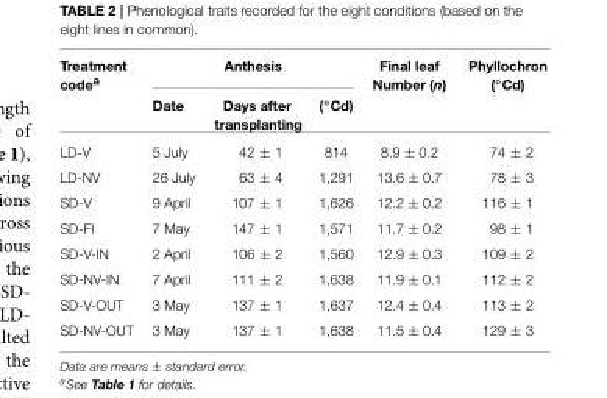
<table><thead><tr><td rowspan="2">Treatment code<sup>a</sup></td><td colspan="3">Anthesis</td><td rowspan="2">Final leaf Number (n)</td><td rowspan="2">Phyllochron (◦Cd)</td></tr><tr><td>Date</td><td>Days after transplanting</td><td>(◦Cd)</td></tr></thead><tbody><tr><td>LD-V</td><td>5 July</td><td>42 ± 1</td><td>814</td><td>8.9 ± 0.2</td><td>74 ± 2</td></tr><tr><td>LD-NV</td><td>26 July</td><td>63 ± 4</td><td>1,291</td><td>13.6 ± 0.7</td><td>78 ± 3</td></tr><tr><td>SD-V</td><td>9 April</td><td>107 ± 1</td><td>1,626</td><td>12.2 ± 0.2</td><td>116 ± 1</td></tr><tr><td>SD-FI</td><td>7 May</td><td>147 ± 1</td><td>1,571</td><td>11.7 ± 0.2</td><td>98 ± 1</td></tr><tr><td>SD-V-IN</td><td>2 April</td><td>106 ± 2</td><td>1,560</td><td>12.9 ± 0.3</td><td>109 ± 2</td></tr><tr><td>SD-NV-IN</td><td>7 April</td><td>111 ± 2</td><td>1,638</td><td>11.9 ± 0.1</td><td>112 ± 2</td></tr><tr><td>SD-V-OUT</td><td>3 May</td><td>137 ± 1</td><td>1,637</td><td>12.4 ± 0.4</td><td>113 ± 2</td></tr><tr><td>SD-NV-OUT</td><td>3 May</td><td>137 ± 1</td><td>1,638</td><td>11.5 ± 0.4</td><td>129 ± 3</td></tr></tbody></table>